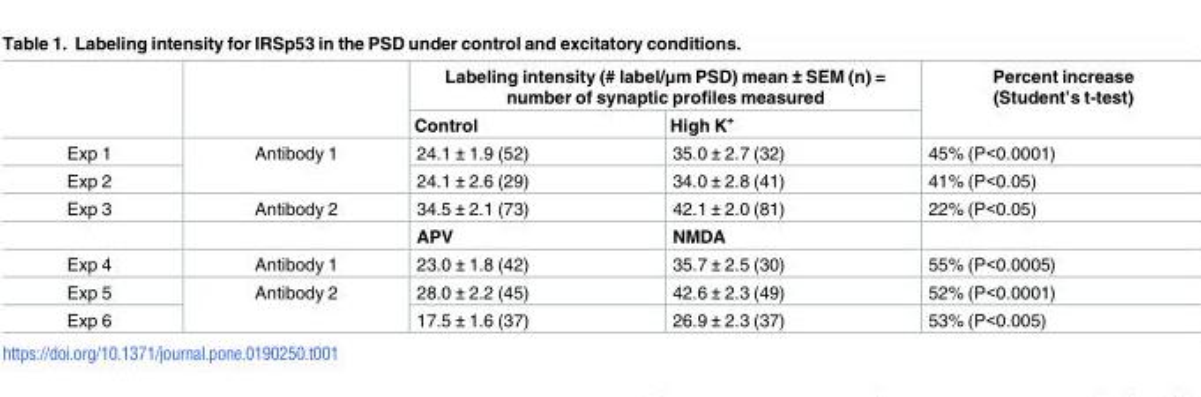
<table><thead><tr><td rowspan="2"></td><td rowspan="2"></td><td colspan="2">Labeling intensity (# label/μm PSD) mean ± SEM (n) = number of synaptic profiles measured</td><td rowspan="2">Percent increase (Student’s t-test)</td></tr><tr><td>Control</td><td>High K<sup>+</sup></td></tr></thead><tbody><tr><td>Exp 1</td><td rowspan="2">Antibody 1</td><td>24.1 ± 1.9 (52)</td><td>35.0 ± 2.7 (32)</td><td>45% (P&lt;0.0001)</td></tr><tr><td>Exp 2</td><td>24.1 ± 2.6 (29)</td><td>34.0 ± 2.8 (41)</td><td>41% (P&lt;0.05)</td></tr><tr><td rowspan="2">Exp 3</td><td>Antibody 2</td><td>34.5 ± 2.1 (73)</td><td>42.1 ± 2.0 (81)</td><td>22% (P&lt;0.05)</td></tr><tr><td></td><td>APV</td><td>NMDA</td><td></td></tr><tr><td>Exp 4</td><td>Antibody 1</td><td>23.0 ± 1.8 (42)</td><td>35.7 ± 2.5 (30)</td><td>55% (P&lt;0.0005)</td></tr><tr><td>Exp 5</td><td rowspan="2">Antibody 2</td><td>28.0 ± 2.2 (45)</td><td>42.6 ± 2.3 (49)</td><td>52% (P&lt;0.0001)</td></tr><tr><td>Exp 6</td><td>17.5 ± 1.6 (37)</td><td>26.9 ± 2.3 (37)</td><td>53% (P&lt;0.005)</td></tr></tbody></table>